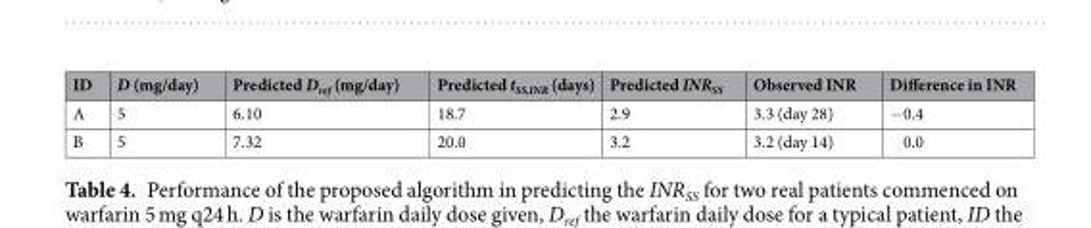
<table><thead><tr><td>ID</td><td>D (mg/day)</td><td>Predicted D<sub>ref</sub> (mg/day)</td><td>Predicted t<sub>SS,INR</sub> (days)</td><td>Predicted INR<sub>SS</sub></td><td>Observed INR</td><td>Difference in INR</td></tr></thead><tbody><tr><td>A</td><td>5</td><td>6.10</td><td>18.7</td><td>2.9</td><td>3.3 (day 28)</td><td>−0.4</td></tr><tr><td>B</td><td>5</td><td>7.32</td><td>20.0</td><td>3.2</td><td>3.2 (day 14)</td><td>0.0</td></tr></tbody></table>